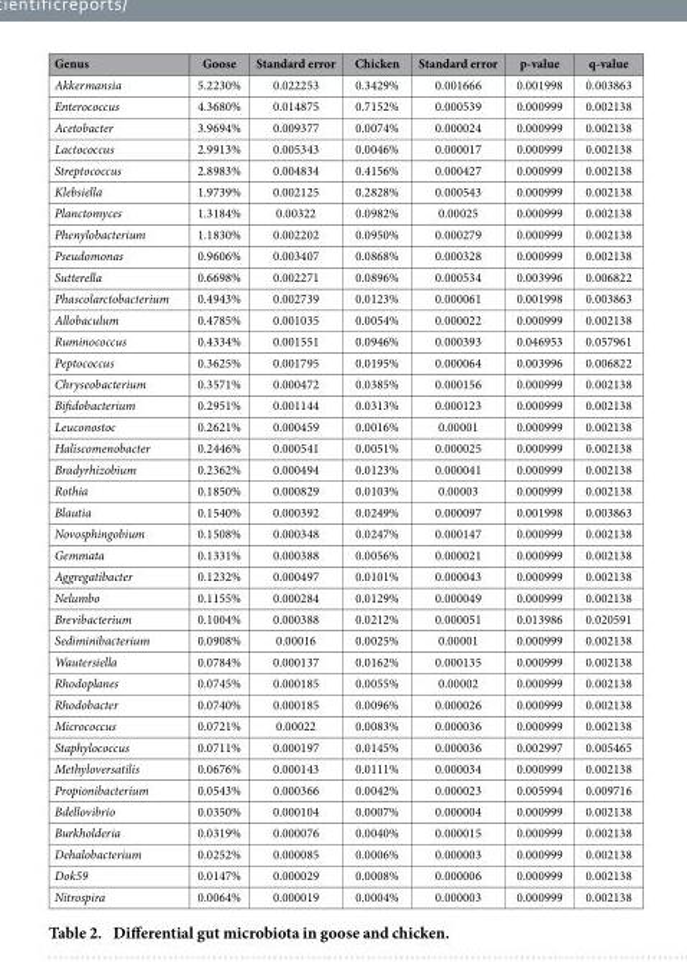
<table><thead><tr><td>Genus</td><td>Goose</td><td>Standard error</td><td>Chicken</td><td>Standard error</td><td>p-value</td><td>q-value</td></tr></thead><tbody><tr><td>Akkermansia</td><td>5.2230%</td><td>0.022253</td><td>0.3429%</td><td>0.001666</td><td>0.001998</td><td>0.003863</td></tr><tr><td>Enterococcus</td><td>4.3680%</td><td>0.014875</td><td>0.7152%</td><td>0.000539</td><td>0.000999</td><td>0.002138</td></tr><tr><td>Acetobacter</td><td>3.9694%</td><td>0.009377</td><td>0.0074%</td><td>0.000024</td><td>0.000999</td><td>0.002138</td></tr><tr><td>Lactococcus</td><td>2.9913%</td><td>0.005343</td><td>0.0046%</td><td>0.000017</td><td>0.000999</td><td>0.002138</td></tr><tr><td>Streptococcus</td><td>2.8983%</td><td>0.004834</td><td>0.4156%</td><td>0.000427</td><td>0.000999</td><td>0.002138</td></tr><tr><td>Klebsiella</td><td>1.9739%</td><td>0.002125</td><td>0.2828%</td><td>0.000543</td><td>0.000999</td><td>0.002138</td></tr><tr><td>Planctomyces</td><td>1.3184%</td><td>0.00322</td><td>0.0982%</td><td>0.00025</td><td>0.000999</td><td>0.002138</td></tr><tr><td>Phenylobacterium</td><td>1.1830%</td><td>0.002202</td><td>0.0950%</td><td>0.000279</td><td>0.000999</td><td>0.002138</td></tr><tr><td>Pseudomonas</td><td>0.9606%</td><td>0.003407</td><td>0.0868%</td><td>0.000328</td><td>0.000999</td><td>0.002138</td></tr><tr><td>Sutterella</td><td>0.6698%</td><td>0.002271</td><td>0.0896%</td><td>0.000534</td><td>0.003996</td><td>0.006822</td></tr><tr><td>Phascolarctobacterium</td><td>0.4943%</td><td>0.002739</td><td>0.0123%</td><td>0.000061</td><td>0.001998</td><td>0.003863</td></tr><tr><td>Allobaculum</td><td>0.4785%</td><td>0.001035</td><td>0.0054%</td><td>0.000022</td><td>0.000999</td><td>0.002138</td></tr><tr><td>Ruminococcus</td><td>0.4334%</td><td>0.001551</td><td>0.0946%</td><td>0.000393</td><td>0.046953</td><td>0.057961</td></tr><tr><td>Peptococcus</td><td>0.3625%</td><td>0.001795</td><td>0.0195%</td><td>0.000064</td><td>0.003996</td><td>0.006822</td></tr><tr><td>Chryseobacterium</td><td>0.3571%</td><td>0.000472</td><td>0.0385%</td><td>0.000156</td><td>0.000999</td><td>0.002138</td></tr><tr><td>Bifidobacterium</td><td>0.2951%</td><td>0.001144</td><td>0.0313%</td><td>0.000123</td><td>0.000999</td><td>0.002138</td></tr><tr><td>Leuconostoc</td><td>0.2621%</td><td>0.000459</td><td>0.0016%</td><td>0.00001</td><td>0.000999</td><td>0.002138</td></tr><tr><td>Haliscomenobacter</td><td>0.2446%</td><td>0.000541</td><td>0.0051%</td><td>0.000025</td><td>0.000999</td><td>0.002138</td></tr><tr><td>Bradyrhizobium</td><td>0.2362%</td><td>0.000494</td><td>0.0123%</td><td>0.000041</td><td>0.000999</td><td>0.002138</td></tr><tr><td>Rothia</td><td>0.1850%</td><td>0.000829</td><td>0.0103%</td><td>0.00003</td><td>0.000999</td><td>0.002138</td></tr><tr><td>Blautia</td><td>0.1540%</td><td>0.000392</td><td>0.0249%</td><td>0.000097</td><td>0.001998</td><td>0.003863</td></tr><tr><td>Novosphingobium</td><td>0.1508%</td><td>0.000348</td><td>0.0247%</td><td>0.000147</td><td>0.000999</td><td>0.002138</td></tr><tr><td>Gemmata</td><td>0.1331%</td><td>0.000388</td><td>0.0056%</td><td>0.000021</td><td>0.000999</td><td>0.002138</td></tr><tr><td>Aggregatibacter</td><td>0.1232%</td><td>0.000497</td><td>0.0101%</td><td>0.000043</td><td>0.000999</td><td>0.002138</td></tr><tr><td>Nelumbo</td><td>0.1155%</td><td>0.000284</td><td>0.0129%</td><td>0.000049</td><td>0.000999</td><td>0.002138</td></tr><tr><td>Brevibacterium</td><td>0.1004%</td><td>0.000388</td><td>0.0212%</td><td>0.000051</td><td>0.013986</td><td>0.020591</td></tr><tr><td>Sediminibacterium</td><td>0.0908%</td><td>0.00016</td><td>0.0025%</td><td>0.00001</td><td>0.000999</td><td>0.002138</td></tr><tr><td>Wautersiella</td><td>0.0784%</td><td>0.000137</td><td>0.0162%</td><td>0.000135</td><td>0.000999</td><td>0.002138</td></tr><tr><td>Rhodoplanes</td><td>0.0745%</td><td>0.000185</td><td>0.0055%</td><td>0.00002</td><td>0.000999</td><td>0.002138</td></tr><tr><td>Rhodobacter</td><td>0.0740%</td><td>0.000185</td><td>0.0096%</td><td>0.000026</td><td>0.000999</td><td>0.002138</td></tr><tr><td>Micrococcus</td><td>0.0721%</td><td>0.00022</td><td>0.0083%</td><td>0.000036</td><td>0.000999</td><td>0.002138</td></tr><tr><td>Staphylococcus</td><td>0.0711%</td><td>0.000197</td><td>0.0145%</td><td>0.000036</td><td>0.002997</td><td>0.005465</td></tr><tr><td>Methyloversatilis</td><td>0.0676%</td><td>0.000143</td><td>0.0111%</td><td>0.000034</td><td>0.000999</td><td>0.002138</td></tr><tr><td>Propionibacterium</td><td>0.0543%</td><td>0.000366</td><td>0.0042%</td><td>0.000023</td><td>0.005994</td><td>0.009716</td></tr><tr><td>Bdellovibrio</td><td>0.0350%</td><td>0.000104</td><td>0.0007%</td><td>0.000004</td><td>0.000999</td><td>0.002138</td></tr><tr><td>Burkholderia</td><td>0.0319%</td><td>0.000076</td><td>0.0040%</td><td>0.000015</td><td>0.000999</td><td>0.002138</td></tr><tr><td>Dehalobacterium</td><td>0.0252%</td><td>0.000085</td><td>0.0006%</td><td>0.000003</td><td>0.000999</td><td>0.002138</td></tr><tr><td>Dok59</td><td>0.0147%</td><td>0.000029</td><td>0.0008%</td><td>0.000006</td><td>0.000999</td><td>0.002138</td></tr><tr><td>Nitrospira</td><td>0.0064%</td><td>0.000019</td><td>0.0004%</td><td>0.000003</td><td>0.000999</td><td>0.002138</td></tr></tbody></table>